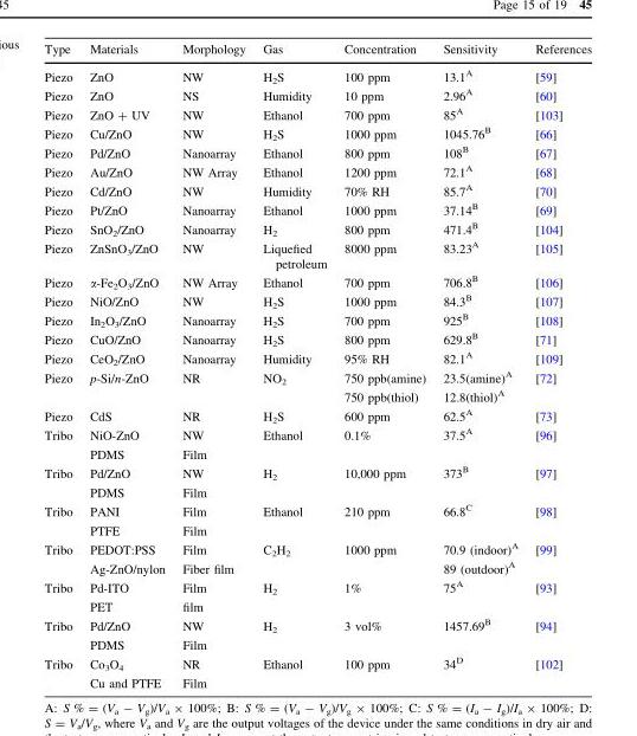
<table><thead><tr><td>Type</td><td>Materials</td><td>Morphology</td><td>Gas</td><td>Concentration</td><td>Sensitivity</td><td>References</td></tr></thead><tbody><tr><td>Piezo</td><td>ZnO</td><td>NW</td><td>H<sub>2</sub>S</td><td>100 ppm</td><td>13.1<sup>A</sup></td><td>[59]</td></tr><tr><td>Piezo</td><td>ZnO</td><td>NS</td><td>Humidity</td><td>10 ppm</td><td>2.96<sup>A</sup></td><td>[60]</td></tr><tr><td>Piezo</td><td>ZnO + UV</td><td>NW</td><td>Ethanol</td><td>700 ppm</td><td>85<sup>A</sup></td><td>[103]</td></tr><tr><td>Piezo</td><td>Cu/ZnO</td><td>NW</td><td>H<sub>2</sub>S</td><td>1000 ppm</td><td>1045.76<sup>B</sup></td><td>[66]</td></tr><tr><td>Piezo</td><td>Pd/ZnO</td><td>Nanoarray</td><td>Ethanol</td><td>800 ppm</td><td>108<sup>B</sup></td><td>[67]</td></tr><tr><td>Piezo</td><td>Au/ZnO</td><td>NW Array</td><td>Ethanol</td><td>1200 ppm</td><td>72.1<sup>A</sup></td><td>[68]</td></tr><tr><td>Piezo</td><td>Cd/ZnO</td><td>NW</td><td>Humidity</td><td>70% RH</td><td>85.7<sup>A</sup></td><td>[70]</td></tr><tr><td>Piezo</td><td>Pt/ZnO</td><td>Nanoarray</td><td>Ethanol</td><td>1000 ppm</td><td>37.14<sup>B</sup></td><td>[69]</td></tr><tr><td>Piezo</td><td>SnO<sub>2</sub>/ZnO</td><td>Nanoarray</td><td>H<sub>2</sub></td><td>800 ppm</td><td>471.4<sup>B</sup></td><td>[104]</td></tr><tr><td>Piezo</td><td>ZnSnO<sub>3</sub>/ZnO</td><td>NW</td><td>Liquefied petroleum</td><td>8000 ppm</td><td>83.23<sup>A</sup></td><td>[105]</td></tr><tr><td>Piezo</td><td>α-Fe<sub>2</sub>O<sub>3</sub>/ZnO</td><td>NW Array</td><td>Ethanol</td><td>700 ppm</td><td>706.8<sup>B</sup></td><td>[106]</td></tr><tr><td>Piezo</td><td>NiO/ZnO</td><td>NW</td><td>H<sub>2</sub>S</td><td>1000 ppm</td><td>84.3<sup>B</sup></td><td>[107]</td></tr><tr><td>Piezo</td><td>In<sub>2</sub>O<sub>3</sub>/ZnO</td><td>Nanoarray</td><td>H<sub>2</sub>S</td><td>700 ppm</td><td>925<sup>B</sup></td><td>[108]</td></tr><tr><td>Piezo</td><td>CuO/ZnO</td><td>Nanoarray</td><td>H<sub>2</sub>S</td><td>800 ppm</td><td>629.8<sup>B</sup></td><td>[71]</td></tr><tr><td>Piezo</td><td>CeO<sub>2</sub>/ZnO</td><td>Nanoarray</td><td>Humidity</td><td>95% RH</td><td>82.1<sup>A</sup></td><td>[109]</td></tr><tr><td>Piezo</td><td>p-Si/n-ZnO</td><td>NR</td><td>NO<sub>2</sub></td><td>750 ppb(amine) 750 ppb(thiol)</td><td>23.5(amine)<sup>A</sup> 12.8(thiol)<sup>A</sup></td><td>[72]</td></tr><tr><td>Piezo</td><td>CdS</td><td>NR</td><td>H<sub>2</sub>S</td><td>600 ppm</td><td>62.5<sup>A</sup></td><td>[73]</td></tr><tr><td>Tribo</td><td>NiO-ZnO PDMS</td><td>NW Film</td><td>Ethanol</td><td>0.1%</td><td>37.5<sup>A</sup></td><td>[96]</td></tr><tr><td>Tribo</td><td>Pd/ZnO PDMS</td><td>NW Film</td><td>H<sub>2</sub></td><td>10,000 ppm</td><td>373<sup>B</sup></td><td>[97]</td></tr><tr><td>Tribo</td><td>PANI PTFE</td><td>Film Film</td><td>Ethanol</td><td>210 ppm</td><td>66.8<sup>C</sup></td><td>[98]</td></tr><tr><td>Tribo</td><td>PEDOT:PSS Ag-ZnO/nylon</td><td>Film Fiber film</td><td>C<sub>2</sub>H<sub>2</sub></td><td>1000 ppm</td><td>70.9 (indoor)<sup>A</sup> 89 (outdoor)<sup>A</sup></td><td>[99]</td></tr><tr><td>Tribo</td><td>Pd-ITO PET</td><td>Film film</td><td>H<sub>2</sub></td><td>1%</td><td>75<sup>A</sup></td><td>[93]</td></tr><tr><td>Tribo</td><td>Pd/ZnO PDMS</td><td>NW Film</td><td>H<sub>2</sub></td><td>3 vol%</td><td>1457.69<sup>B</sup></td><td>[94]</td></tr><tr><td>Tribo</td><td>Co<sub>3</sub>O<sub>4</sub> Cu and PTFE</td><td>NR Film</td><td>Ethanol</td><td>100 ppm</td><td>34<sup>D</sup></td><td>[102]</td></tr></tbody></table>